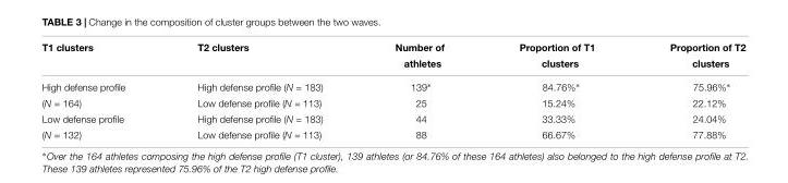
<table><thead><tr><td rowspan="2">T1 clusters</td><td rowspan="2">T2 clusters</td><td rowspan="2">Number of athletes</td><td rowspan="2">Proportion of T1 clusters</td><td rowspan="2">Proportion of T2 clusters</td></tr><tr></tr></thead><tbody><tr><td>High defense profile</td><td>High defense profile (N = 183)</td><td>139∗</td><td>84.76%∗</td><td>75.96%∗</td></tr><tr><td>(N = 164)</td><td>Low defense profile (N = 113)</td><td>25</td><td>15.24%</td><td>22.12%</td></tr><tr><td>Low defense profile</td><td>High defense profile (N = 183)</td><td>44</td><td>33.33%</td><td>24.04%</td></tr><tr><td>(N = 132)</td><td>Low defense profile (N = 113)</td><td>88</td><td>66.67%</td><td>77.88%</td></tr></tbody></table>